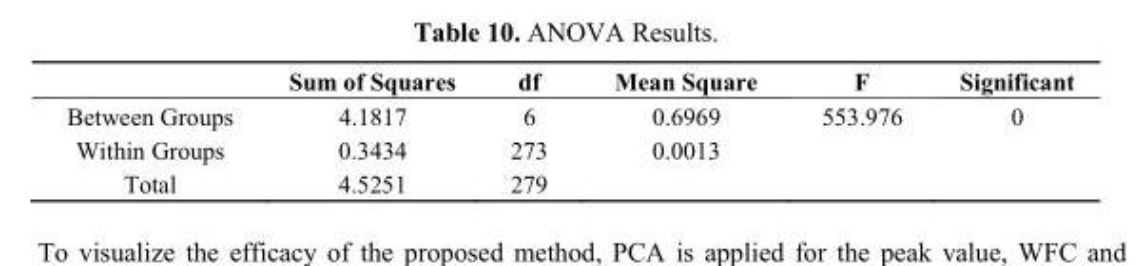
<table><thead><tr><td></td><td>Sum of Squares</td><td>df</td><td>Mean Square</td><td>F</td><td>Significant</td></tr></thead><tbody><tr><td>Between Groups</td><td>4.1817</td><td>6</td><td>0.6969</td><td>553.976</td><td>0</td></tr><tr><td>Within Groups</td><td>0.3434</td><td>273</td><td>0.0013</td><td></td><td></td></tr><tr><td>Total</td><td>4.5251</td><td>279</td><td></td><td></td><td></td></tr></tbody></table>